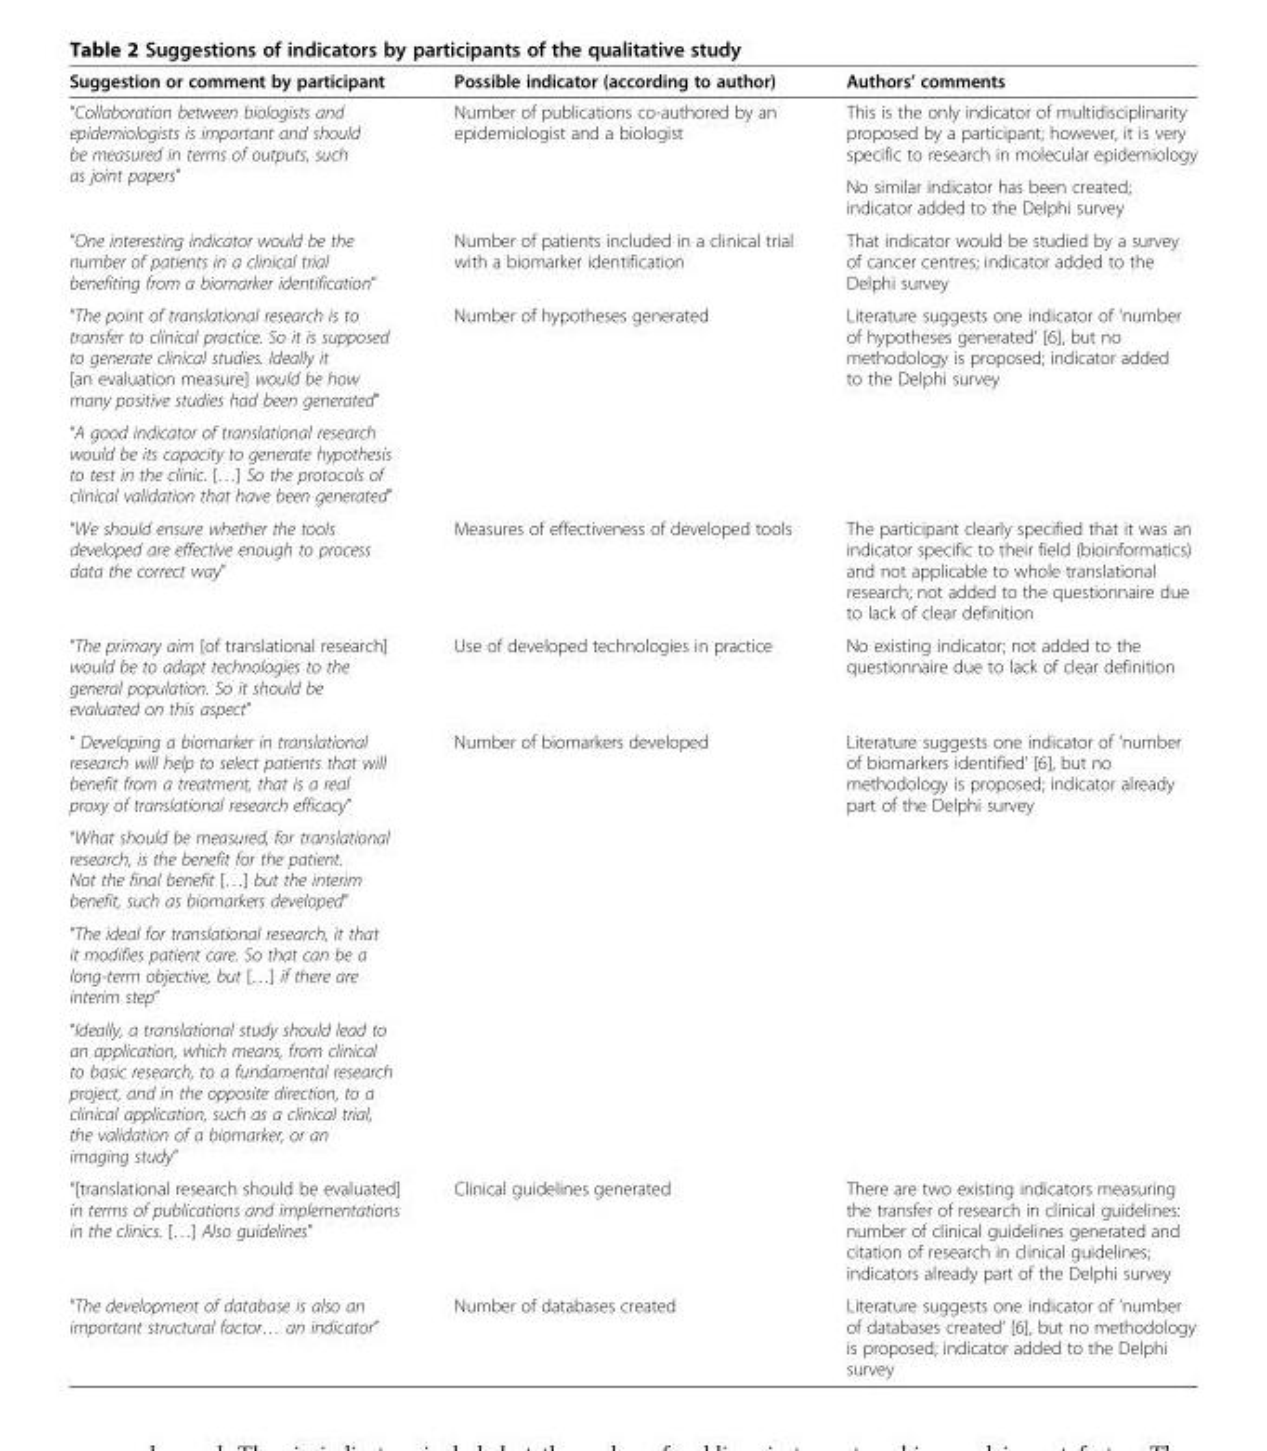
<table><thead><tr><td>Suggestion or comment by participant</td><td>Possible indicator (according to author)</td><td>Authors’ comments</td></tr></thead><tbody><tr><td rowspan="2">“Collaboration between biologists and epidemiologists is important and should be measured in terms of outputs, such as joint papers”</td><td rowspan="2">Number of publications co-authored by an epidemiologist and a biologist</td><td>This is the only indicator of multidisciplinarity proposed by a participant; however, it is very specific to research in molecular epidemiology</td></tr><tr><td>No similar indicator has been created; indicator added to the Delphi survey</td></tr><tr><td>“One interesting indicator would be the number of patients in a clinical trial benefiting from a biomarker identification”</td><td>Number of patients included in a clinical trial with a biomarker identification</td><td>That indicator would be studied by a survey of cancer centres; indicator added to the Delphi survey</td></tr><tr><td>“The point of translational research is to transfer to clinical practice. So it is supposed to generate clinical studies. Ideally it [an evaluation measure] would be how many positive studies had been generated”</td><td rowspan="2">Number of hypotheses generated</td><td rowspan="2">Literature suggests one indicator of ‘number of hypotheses generated’ [6], but no methodology is proposed; indicator added to the Delphi survey</td></tr><tr><td>“A good indicator of translational research would be its capacity to generate hypothesis to test in the clinic. […] So the protocols of clinical validation that have been generated”</td></tr><tr><td>“We should ensure whether the tools developed are effective enough to process data the correct way”</td><td>Measures of effectiveness of developed tools</td><td>The participant clearly specified that it was an indicator specific to their field (bioinformatics) and not applicable to whole translational research; not added to the questionnaire due to lack of clear definition</td></tr><tr><td>“The primary aim [of translational research] would be to adapt technologies to the general population. So it should be evaluated on this aspect”</td><td>Use of developed technologies in practice</td><td>No existing indicator; not added to the questionnaire due to lack of clear definition</td></tr><tr><td>“ Developing a biomarker in translational research will help to select patients that will benefit from a treatment, that is a real proxy of translational research efficacy”</td><td rowspan="4">Number of biomarkers developed</td><td rowspan="4">Literature suggests one indicator of ‘number of biomarkers identified’ [6], but no methodology is proposed; indicator already part of the Delphi survey</td></tr><tr><td>“What should be measured, for translational research, is the benefit for the patient. Not the final benefit […] but the interim benefit, such as biomarkers developed”</td></tr><tr><td>“The ideal for translational research, it that it modifies patient care. So that can be a long-term objective, but […] if there are interim step”</td></tr><tr><td>“Ideally, a translational study should lead to an application, which means, from clinical to basic research, to a fundamental research project, and in the opposite direction, to a clinical application, such as a clinical trial, the validation of a biomarker, or an imaging study”</td></tr><tr><td>“[translational research should be evaluated] in terms of publications and implementations in the clinics. […] Also guidelines”</td><td>Clinical guidelines generated</td><td>There are two existing indicators measuring the transfer of research in clinical guidelines: number of clinical guidelines generated and citation of research in clinical guidelines; indicators already part of the Delphi survey</td></tr><tr><td>“The development of database is also an important structural factor… an indicator”</td><td>Number of databases created</td><td>Literature suggests one indicator of ‘number of databases created’ [6], but no methodology is proposed; indicator added to the Delphi survey</td></tr></tbody></table>